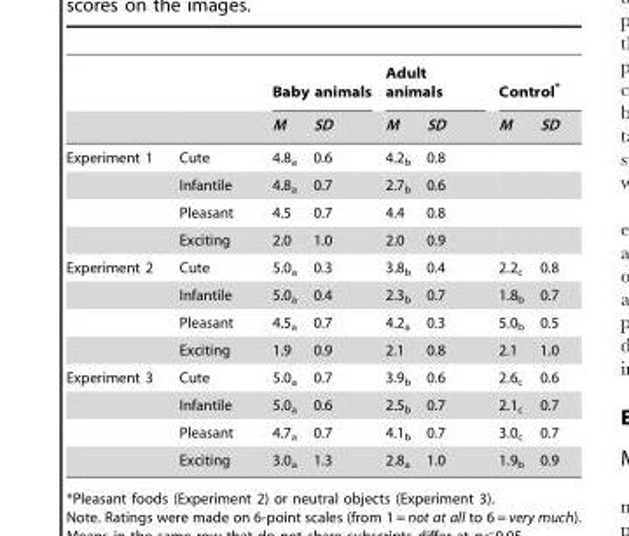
<table><thead><tr><td rowspan="2"></td><td rowspan="2"></td><td colspan="2">Baby animals</td><td colspan="2">Adult animals</td><td colspan="2">Control*</td></tr><tr><td>M</td><td>SD</td><td>M</td><td>SD</td><td>M</td><td>SD</td></tr></thead><tbody><tr><td rowspan="4">Experiment 1</td><td>Cute</td><td>4.8<sub>a</sub></td><td>0.6</td><td>4.2<sub>b</sub></td><td>0.8</td><td></td><td></td></tr><tr><td>Infantile</td><td>4.8<sub>a</sub></td><td>0.7</td><td>2.7<sub>b</sub></td><td>0.6</td><td></td><td></td></tr><tr><td>Pleasant</td><td>4.5</td><td>0.7</td><td>4.4</td><td>0.8</td><td></td><td></td></tr><tr><td>Exciting</td><td>2.0</td><td>1.0</td><td>2.0</td><td>0.9</td><td></td><td></td></tr><tr><td rowspan="4">Experiment 2</td><td>Cute</td><td>5.0<sub>a</sub></td><td>0.3</td><td>3.8<sub>b</sub></td><td>0.4</td><td>2.2<sub>c</sub></td><td>0.8</td></tr><tr><td>Infantile</td><td>5.0<sub>a</sub></td><td>0.4</td><td>2.3<sub>b</sub></td><td>0.7</td><td>1.8<sub>b</sub></td><td>0.7</td></tr><tr><td>Pleasant</td><td>4.5<sub>a</sub></td><td>0.7</td><td>4.2<sub>a</sub></td><td>0.3</td><td>5.0<sub>b</sub></td><td>0.5</td></tr><tr><td>Exciting</td><td>1.9</td><td>0.9</td><td>2.1</td><td>0.8</td><td>2.1</td><td>1.0</td></tr><tr><td rowspan="4">Experiment 3</td><td>Cute</td><td>5.0<sub>a</sub></td><td>0.7</td><td>3.9<sub>b</sub></td><td>0.6</td><td>2.6<sub>c</sub></td><td>0.6</td></tr><tr><td>Infantile</td><td>5.0<sub>a</sub></td><td>0.6</td><td>2.5<sub>b</sub></td><td>0.7</td><td>2.1<sub>c</sub></td><td>0.7</td></tr><tr><td>Pleasant</td><td>4.7<sub>a</sub></td><td>0.7</td><td>4.1<sub>b</sub></td><td>0.7</td><td>3.0<sub>c</sub></td><td>0.7</td></tr><tr><td>Exciting</td><td>3.0<sub>a</sub></td><td>1.3</td><td>2.8<sub>a</sub></td><td>1.0</td><td>1.9<sub>b</sub></td><td>0.9</td></tr></tbody></table>